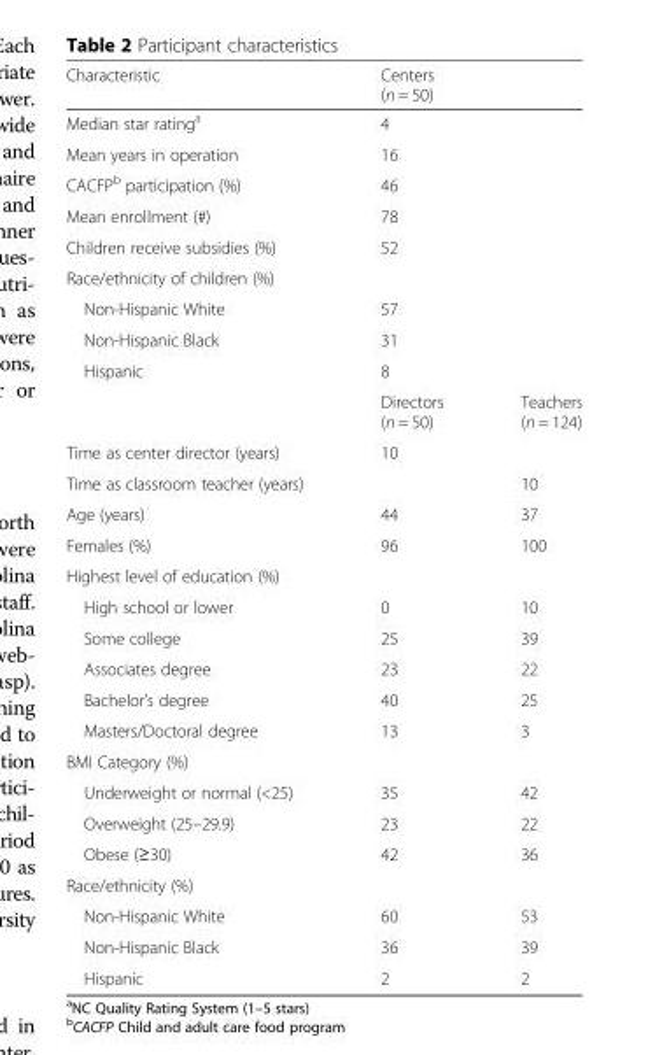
<table><thead><tr><td>Characteristic</td><td colspan="2">Centers (n = 50)</td></tr></thead><tbody><tr><td>Median star rating<sup>a</sup></td><td colspan="2">4</td></tr><tr><td>Mean years in operation</td><td colspan="2">16</td></tr><tr><td>CACFP<sup>b</sup> participation (%)</td><td colspan="2">46</td></tr><tr><td>Mean enrollment (#)</td><td colspan="2">78</td></tr><tr><td>Children receive subsidies (%)</td><td colspan="2">52</td></tr><tr><td colspan="3">Race/ethnicity of children (%)</td></tr><tr><td>Non-Hispanic White</td><td colspan="2">57</td></tr><tr><td>Non-Hispanic Black</td><td colspan="2">31</td></tr><tr><td rowspan="2">Hispanic</td><td colspan="2">8</td></tr><tr><td>Directors (n = 50)</td><td>Teachers (n = 124)</td></tr><tr><td>Time as center director (years)</td><td>10</td><td></td></tr><tr><td>Time as classroom teacher (years)</td><td></td><td>10</td></tr><tr><td>Age (years)</td><td>44</td><td>37</td></tr><tr><td>Females (%)</td><td>96</td><td>100</td></tr><tr><td colspan="3">Highest level of education (%)</td></tr><tr><td>High school or lower</td><td>0</td><td>10</td></tr><tr><td>Some college</td><td>25</td><td>39</td></tr><tr><td>Associates degree</td><td>23</td><td>22</td></tr><tr><td>Bachelor’s degree</td><td>40</td><td>25</td></tr><tr><td>Masters/Doctoral degree</td><td>13</td><td>3</td></tr><tr><td colspan="3">BMI Category (%)</td></tr><tr><td>Underweight or normal (&lt;25)</td><td>35</td><td>42</td></tr><tr><td>Overweight (25–29.9)</td><td>23</td><td>22</td></tr><tr><td>Obese (≥30)</td><td>42</td><td>36</td></tr><tr><td colspan="3">Race/ethnicity (%)</td></tr><tr><td>Non-Hispanic White</td><td>60</td><td>53</td></tr><tr><td>Non-Hispanic Black</td><td>36</td><td>39</td></tr><tr><td>Hispanic</td><td>2</td><td>2</td></tr></tbody></table>